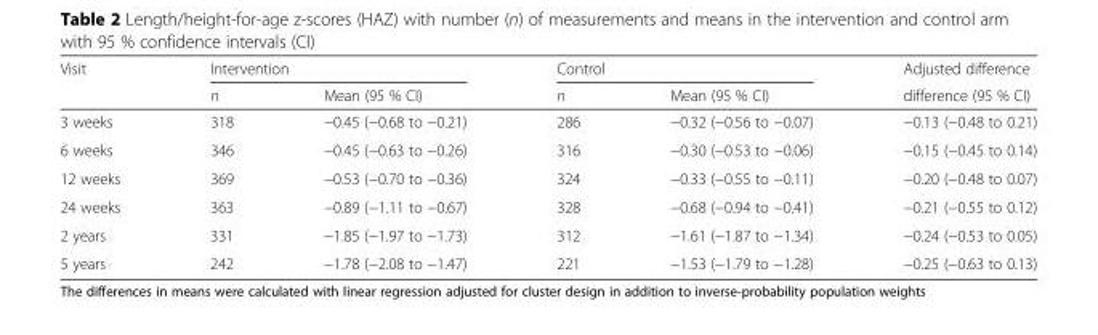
<table><thead><tr><td rowspan="2">Visit</td><td colspan="2">Intervention</td><td colspan="2">Control</td><td rowspan="2">Adjusted difference difference (95 % CI)</td></tr><tr><td>n</td><td>Mean (95 % CI)</td><td>n</td><td>Mean (95 % CI)</td></tr></thead><tbody><tr><td>3 weeks</td><td>318</td><td>−0.45 (−0.68 to −0.21)</td><td>286</td><td>−0.32 (−0.56 to −0.07)</td><td>−0.13 (−0.48 to 0.21)</td></tr><tr><td>6 weeks</td><td>346</td><td>−0.45 (−0.63 to −0.26)</td><td>316</td><td>−0.30 (−0.53 to −0.06)</td><td>−0.15 (−0.45 to 0.14)</td></tr><tr><td>12 weeks</td><td>369</td><td>−0.53 (−0.70 to −0.36)</td><td>324</td><td>−0.33 (−0.55 to −0.11)</td><td>−0.20 (−0.48 to 0.07)</td></tr><tr><td>24 weeks</td><td>363</td><td>−0.89 (−1.11 to −0.67)</td><td>328</td><td>−0.68 (−0.94 to −0.41)</td><td>−0.21 (−0.55 to 0.12)</td></tr><tr><td>2 years</td><td>331</td><td>−1.85 (−1.97 to −1.73)</td><td>312</td><td>−1.61 (−1.87 to −1.34)</td><td>−0.24 (−0.53 to 0.05)</td></tr><tr><td>5 years</td><td>242</td><td>−1.78 (−2.08 to −1.47)</td><td>221</td><td>−1.53 (−1.79 to −1.28)</td><td>−0.25 (−0.63 to 0.13)</td></tr></tbody></table>